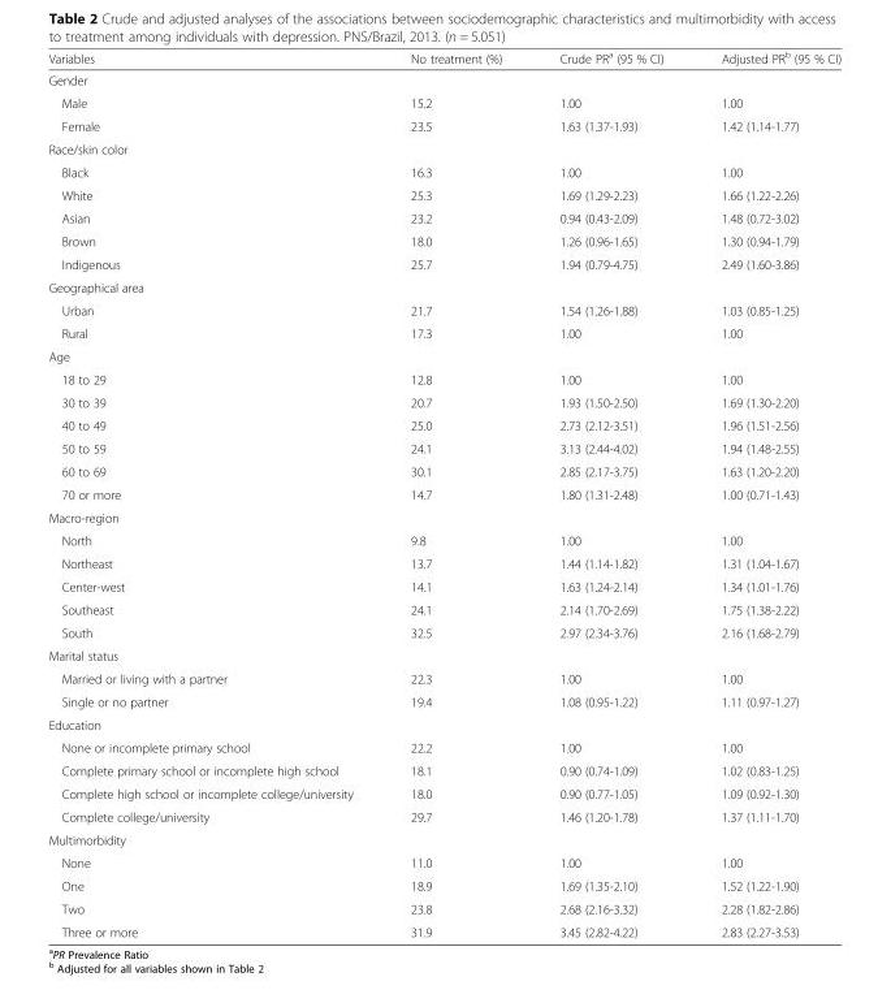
<table><thead><tr><td>Variables</td><td>No treatment (%)</td><td>Crude PR<sup>a</sup> (95 % CI)</td><td>Adjusted PR<sup>b</sup> (95 % CI)</td></tr></thead><tbody><tr><td colspan="4">Gender</td></tr><tr><td>Male</td><td>15.2</td><td>1.00</td><td>1.00</td></tr><tr><td>Female</td><td>23.5</td><td>1.63 (1.37-1.93)</td><td>1.42 (1.14-1.77)</td></tr><tr><td colspan="4">Race/skin color</td></tr><tr><td>Black</td><td>16.3</td><td>1.00</td><td>1.00</td></tr><tr><td>White</td><td>25.3</td><td>1.69 (1.29-2.23)</td><td>1.66 (1.22-2.26)</td></tr><tr><td>Asian</td><td>23.2</td><td>0.94 (0.43-2.09)</td><td>1.48 (0.72-3.02)</td></tr><tr><td>Brown</td><td>18.0</td><td>1.26 (0.96-1.65)</td><td>1.30 (0.94-1.79)</td></tr><tr><td>Indigenous</td><td>25.7</td><td>1.94 (0.79-4.75)</td><td>2.49 (1.60-3.86)</td></tr><tr><td colspan="4">Geographical area</td></tr><tr><td>Urban</td><td>21.7</td><td>1.54 (1.26-1.88)</td><td>1.03 (0.85-1.25)</td></tr><tr><td>Rural</td><td>17.3</td><td>1.00</td><td>1.00</td></tr><tr><td colspan="4">Age</td></tr><tr><td>18 to 29</td><td>12.8</td><td>1.00</td><td>1.00</td></tr><tr><td>30 to 39</td><td>20.7</td><td>1.93 (1.50-2.50)</td><td>1.69 (1.30-2.20)</td></tr><tr><td>40 to 49</td><td>25.0</td><td>2.73 (2.12-3.51)</td><td>1.96 (1.51-2.56)</td></tr><tr><td>50 to 59</td><td>24.1</td><td>3.13 (2.44-4.02)</td><td>1.94 (1.48-2.55)</td></tr><tr><td>60 to 69</td><td>30.1</td><td>2.85 (2.17-3.75)</td><td>1.63 (1.20-2.20)</td></tr><tr><td>70 or more</td><td>14.7</td><td>1.80 (1.31-2.48)</td><td>1.00 (0.71-1.43)</td></tr><tr><td colspan="4">Macro-region</td></tr><tr><td>North</td><td>9.8</td><td>1.00</td><td>1.00</td></tr><tr><td>Northeast</td><td>13.7</td><td>1.44 (1.14-1.82)</td><td>1.31 (1.04-1.67)</td></tr><tr><td>Center-west</td><td>14.1</td><td>1.63 (1.24-2.14)</td><td>1.34 (1.01-1.76)</td></tr><tr><td>Southeast</td><td>24.1</td><td>2.14 (1.70-2.69)</td><td>1.75 (1.38-2.22)</td></tr><tr><td>South</td><td>32.5</td><td>2.97 (2.34-3.76)</td><td>2.16 (1.68-2.79)</td></tr><tr><td colspan="4">Marital status</td></tr><tr><td>Married or living with a partner</td><td>22.3</td><td>1.00</td><td>1.00</td></tr><tr><td>Single or no partner</td><td>19.4</td><td>1.08 (0.95-1.22)</td><td>1.11 (0.97-1.27)</td></tr><tr><td colspan="4">Education</td></tr><tr><td>None or incomplete primary school</td><td>22.2</td><td>1.00</td><td>1.00</td></tr><tr><td>Complete primary school or incomplete high school</td><td>18.1</td><td>0.90 (0.74-1.09)</td><td>1.02 (0.83-1.25)</td></tr><tr><td>Complete high school or incomplete college/university</td><td>18.0</td><td>0.90 (0.77-1.05)</td><td>1.09 (0.92-1.30)</td></tr><tr><td>Complete college/university</td><td>29.7</td><td>1.46 (1.20-1.78)</td><td>1.37 (1.11-1.70)</td></tr><tr><td colspan="4">Multimorbidity</td></tr><tr><td>None</td><td>11.0</td><td>1.00</td><td>1.00</td></tr><tr><td>One</td><td>18.9</td><td>1.69 (1.35-2.10)</td><td>1.52 (1.22-1.90)</td></tr><tr><td>Two</td><td>23.8</td><td>2.68 (2.16-3.32)</td><td>2.28 (1.82-2.86)</td></tr><tr><td>Three or more</td><td>31.9</td><td>3.45 (2.82-4.22)</td><td>2.83 (2.27-3.53)</td></tr></tbody></table>